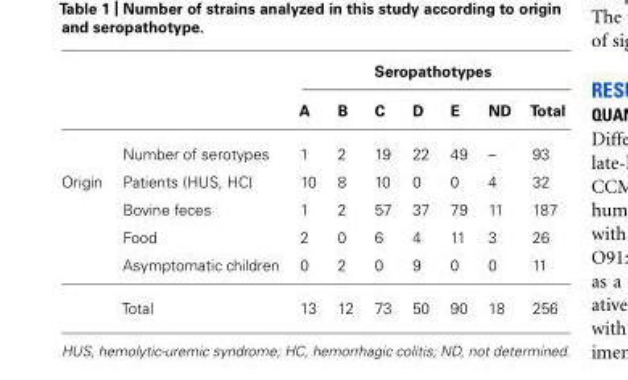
<table><thead><tr><td rowspan="2"></td><td rowspan="2"></td><td colspan="7">Seropathotypes</td></tr><tr><td>A</td><td>B</td><td>C</td><td>D</td><td>E</td><td>ND</td><td>Total</td></tr></thead><tbody><tr><td></td><td>Number of serotypes</td><td>1</td><td>2</td><td>19</td><td>22</td><td>49</td><td>–</td><td>93</td></tr><tr><td rowspan="5">Origin</td><td>Patients (HUS, HC)</td><td>10</td><td>8</td><td>10</td><td>0</td><td>0</td><td>4</td><td>32</td></tr><tr><td>Bovine feces</td><td>1</td><td>2</td><td>57</td><td>37</td><td>79</td><td>11</td><td>187</td></tr><tr><td>Food</td><td>2</td><td>0</td><td>6</td><td>4</td><td>11</td><td>3</td><td>26</td></tr><tr><td>Asymptomatic children</td><td>0</td><td>2</td><td>0</td><td>9</td><td>0</td><td>0</td><td>11</td></tr><tr><td>Total</td><td>13</td><td>12</td><td>73</td><td>50</td><td>90</td><td>18</td><td>256</td></tr></tbody></table>